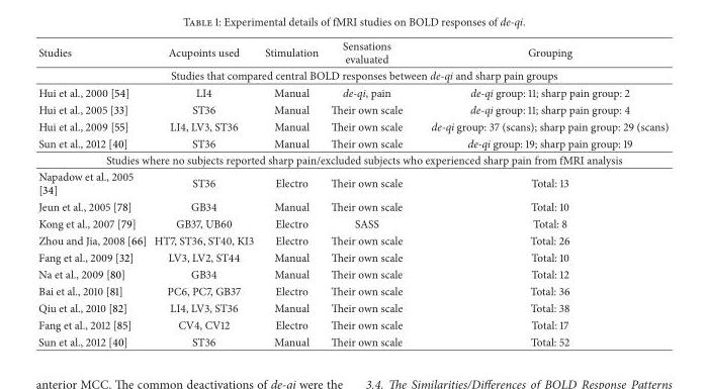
<table><thead><tr><td>Studies</td><td>Acupoints used</td><td>Stimulation</td><td>Sensations evaluated</td><td>Grouping</td></tr></thead><tbody><tr><td colspan="5">Studies that compared central BOLD responses between de-qi and sharp pain groups</td></tr><tr><td>Hui et al., 2000 [54]</td><td>LI4</td><td>Manual</td><td>de-qi, pain</td><td>de-qi group: 11; sharp pain group: 2</td></tr><tr><td>Hui et al., 2005 [33]</td><td>ST36</td><td>Manual</td><td>Their own scale</td><td>de-qi group: 11; sharp pain group: 4</td></tr><tr><td>Hui et al., 2009 [55]</td><td>LI4, LV3, ST36</td><td>Manual</td><td>Their own scale</td><td>de-qi group: 37 (scans); sharp pain group: 29 (scans)</td></tr><tr><td>Sun et al., 2012 [40]</td><td>ST36</td><td>Manual</td><td>Their own scale</td><td>de-qi group: 19; sharp pain group: 19</td></tr><tr><td colspan="5">Studies where no subjects reported sharp pain/excluded subjects who experienced sharp pain from fMRI analysis</td></tr><tr><td>Napadow et al., 2005 [34]</td><td>ST36</td><td>Electro</td><td>Their own scale</td><td>Total: 13</td></tr><tr><td>Jeun et al., 2005 [78]</td><td>GB34</td><td>Manual</td><td>Their own scale</td><td>Total: 10</td></tr><tr><td>Kong et al., 2007 [79]</td><td>GB37, UB60</td><td>Electro</td><td>SASS</td><td>Total: 8</td></tr><tr><td>Zhou and Jia, 2008 [66]</td><td>HT7, ST36, ST40, KI3</td><td>Electro</td><td>Their own scale</td><td>Total: 26</td></tr><tr><td>Fang et al., 2009 [32]</td><td>LV3, LV2, ST44</td><td>Manual</td><td>Their own scale</td><td>Total: 10</td></tr><tr><td>Na et al., 2009 [80]</td><td>GB34</td><td>Manual</td><td>Their own scale</td><td>Total: 12</td></tr><tr><td>Bai et al., 2010 [81]</td><td>PC6, PC7, GB37</td><td>Electro</td><td>Their own scale</td><td>Total: 36</td></tr><tr><td>Qiu et al., 2010 [82]</td><td>LI4, LV3, ST36</td><td>Manual</td><td>Their own scale</td><td>Total: 38</td></tr><tr><td>Fang et al., 2012 [85]</td><td>CV4, CV12</td><td>Electro</td><td>Their own scale</td><td>Total: 17</td></tr><tr><td>Sun et al., 2012 [40]</td><td>ST36</td><td>Manual</td><td>Their own scale</td><td>Total: 52</td></tr></tbody></table>